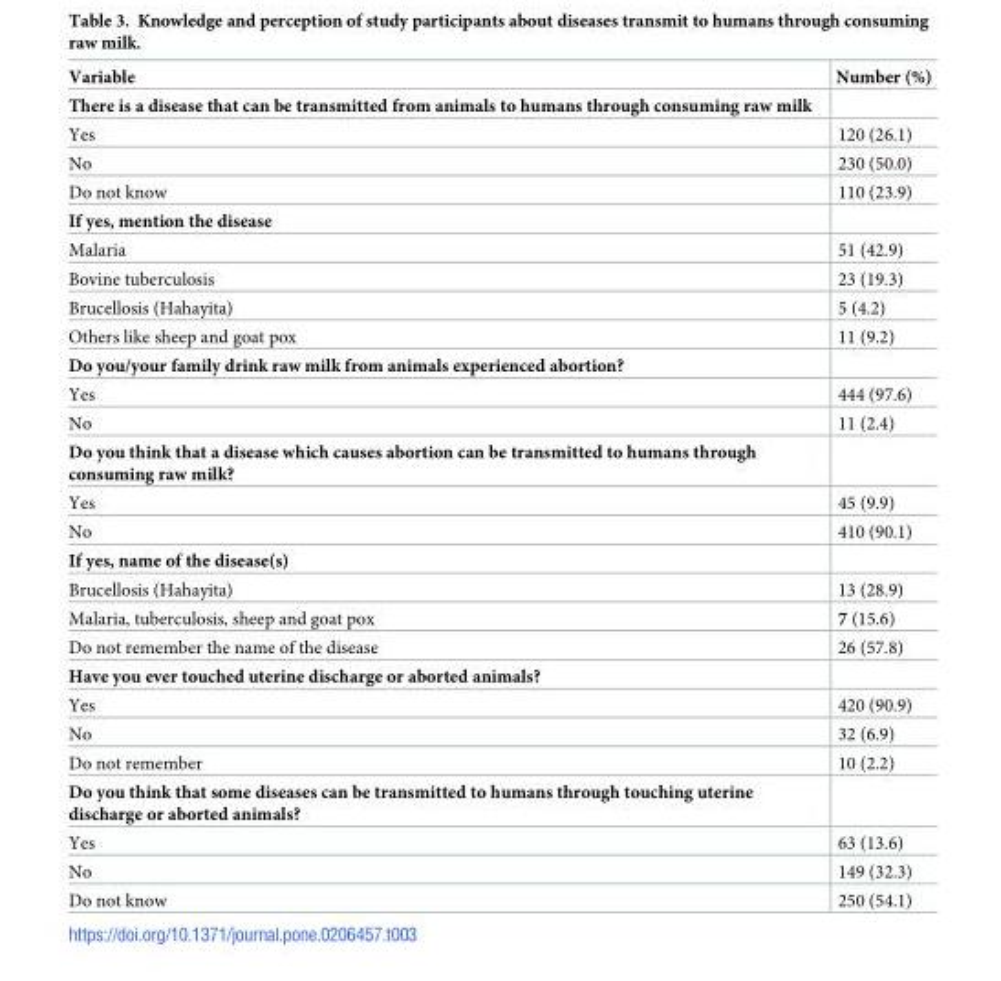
<table><thead><tr><td>Variable</td><td>Number (%)</td></tr></thead><tbody><tr><td colspan="2">There is a disease that can be transmitted from animals to humans through consuming raw milk</td></tr><tr><td>Yes</td><td>120 (26.1)</td></tr><tr><td>No</td><td>230 (50.0)</td></tr><tr><td>Do not know</td><td>110 (23.9)</td></tr><tr><td colspan="2">If yes, mention the disease</td></tr><tr><td>Malaria</td><td>51 (42.9)</td></tr><tr><td>Bovine tuberculosis</td><td>23 (19.3)</td></tr><tr><td>Brucellosis (Hahayita)</td><td>5 (4.2)</td></tr><tr><td>Others like sheep and goat pox</td><td>11 (9.2)</td></tr><tr><td colspan="2">Do you/your family drink raw milk from animals experienced abortion?</td></tr><tr><td>Yes</td><td>444 (97.6)</td></tr><tr><td>No</td><td>11 (2.4)</td></tr><tr><td colspan="2">Do you think that a disease which causes abortion can be transmitted to humans through consuming raw milk?</td></tr><tr><td>Yes</td><td>45 (9.9)</td></tr><tr><td>No</td><td>410 (90.1)</td></tr><tr><td colspan="2">If yes, name of the disease(s)</td></tr><tr><td>Brucellosis (Hahayita)</td><td>13 (28.9)</td></tr><tr><td>Malaria, tuberculosis, sheep and goat pox</td><td>7 (15.6)</td></tr><tr><td>Do not remember the name of the disease</td><td>26 (57.8)</td></tr><tr><td colspan="2">Have you ever touched uterine discharge or aborted animals?</td></tr><tr><td>Yes</td><td>420 (90.9)</td></tr><tr><td>No</td><td>32 (6.9)</td></tr><tr><td>Do not remember</td><td>10 (2.2)</td></tr><tr><td colspan="2">Do you think that some diseases can be transmitted to humans through touching uterine discharge or aborted animals?</td></tr><tr><td>Yes</td><td>63 (13.6)</td></tr><tr><td>No</td><td>149 (32.3)</td></tr><tr><td>Do not know</td><td>250 (54.1)</td></tr></tbody></table>